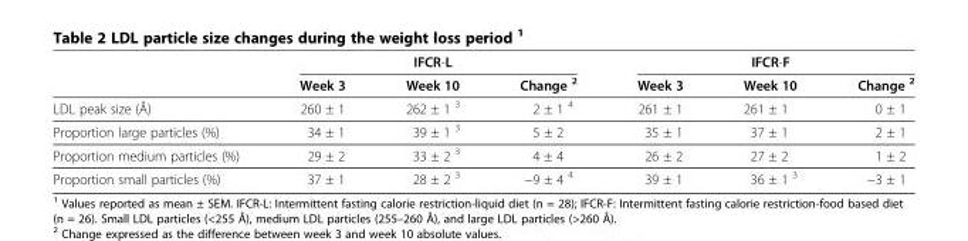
<table><thead><tr><td rowspan="2"></td><td rowspan="2">Week 3</td><td rowspan="2">IFCR-L Week 10</td><td rowspan="2">Change <sup>2</sup></td><td rowspan="2">Week 3</td><td rowspan="2">IFCR-F Week 10</td><td rowspan="2">Change <sup>2</sup></td></tr><tr></tr></thead><tbody><tr><td>LDL peak size (Å)</td><td>260 ± 1</td><td>262 ± 1 <sup>3</sup></td><td>2 ± 1 <sup>4</sup></td><td>261 ± 1</td><td>261 ± 1</td><td>0 ± 1</td></tr><tr><td>Proportion large particles (%)</td><td>34 ± 1</td><td>39 ± 1 <sup>3</sup></td><td>5 ± 2</td><td>35 ± 1</td><td>37 ± 1</td><td>2 ± 1</td></tr><tr><td>Proportion medium particles (%)</td><td>29 ± 2</td><td>33 ± 2 <sup>3</sup></td><td>4 ± 4</td><td>26 ± 2</td><td>27 ± 2</td><td>1 ± 2</td></tr><tr><td>Proportion small particles (%)</td><td>37 ± 1</td><td>28 ± 2 <sup>3</sup></td><td>−9 ± 4 <sup>4</sup></td><td>39 ± 1</td><td>36 ± 1 <sup>3</sup></td><td>−3 ± 1</td></tr></tbody></table>